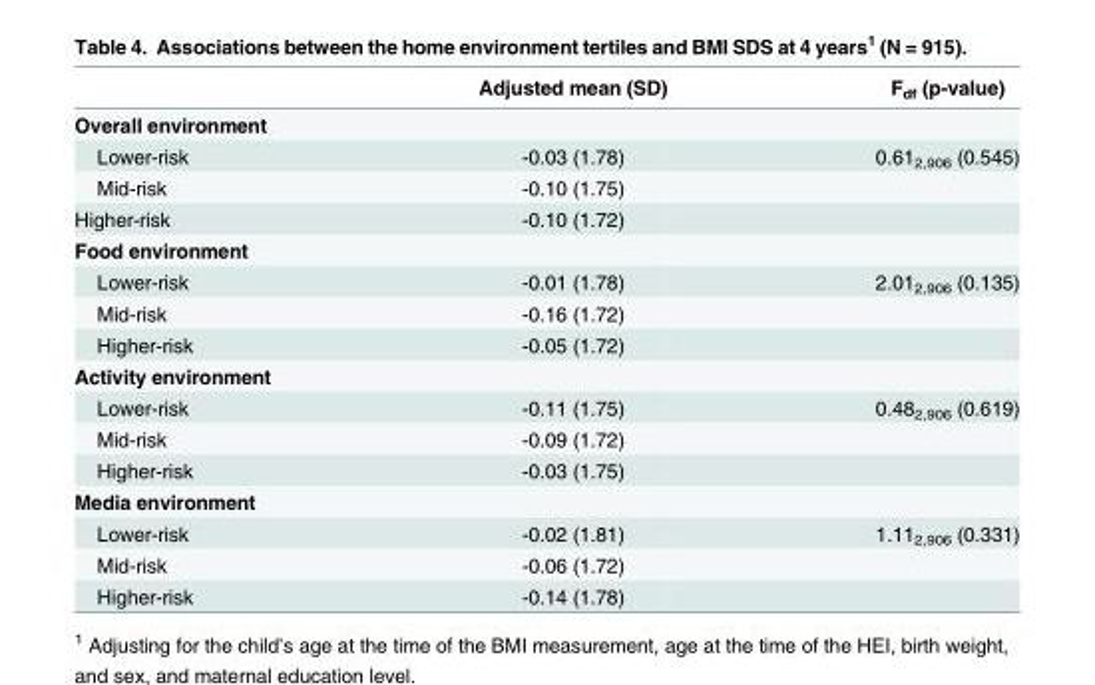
<table><thead><tr><td></td><td>Adjusted mean (SD)</td><td>F<sub>df</sub> (p-value)</td></tr></thead><tbody><tr><td colspan="3">Overall environment</td></tr><tr><td>Lower-risk</td><td>-0.03 (1.78)</td><td>0.61<sub>2,906</sub> (0.545)</td></tr><tr><td>Mid-risk</td><td>-0.10 (1.75)</td><td></td></tr><tr><td>Higher-risk</td><td>-0.10 (1.72)</td><td></td></tr><tr><td colspan="3">Food environment</td></tr><tr><td>Lower-risk</td><td>-0.01 (1.78)</td><td>2.01<sub>2,906</sub> (0.135)</td></tr><tr><td>Mid-risk</td><td>-0.16 (1.72)</td><td></td></tr><tr><td>Higher-risk</td><td>-0.05 (1.72)</td><td></td></tr><tr><td colspan="3">Activity environment</td></tr><tr><td>Lower-risk</td><td>-0.11 (1.75)</td><td>0.48<sub>2,906</sub> (0.619)</td></tr><tr><td>Mid-risk</td><td>-0.09 (1.72)</td><td></td></tr><tr><td>Higher-risk</td><td>-0.03 (1.75)</td><td></td></tr><tr><td colspan="3">Media environment</td></tr><tr><td>Lower-risk</td><td>-0.02 (1.81)</td><td>1.11<sub>2,906</sub> (0.331)</td></tr><tr><td>Mid-risk</td><td>-0.06 (1.72)</td><td></td></tr><tr><td>Higher-risk</td><td>-0.14 (1.78)</td><td></td></tr></tbody></table>